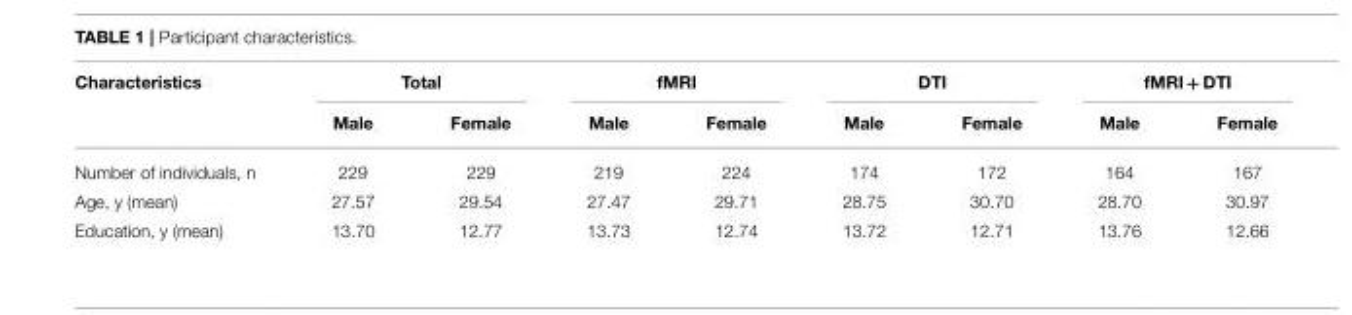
<table><thead><tr><td rowspan="2">Characteristics</td><td colspan="2">Total</td><td colspan="2">fMRI</td><td colspan="2">DTI</td><td colspan="2">fMRI + DTI</td></tr><tr><td>Male</td><td>Female</td><td>Male</td><td>Female</td><td>Male</td><td>Female</td><td>Male</td><td>Female</td></tr></thead><tbody><tr><td>Number of individuals, n</td><td>229</td><td>229</td><td>219</td><td>224</td><td>174</td><td>172</td><td>164</td><td>167</td></tr><tr><td>Age, y (mean)</td><td>27.57</td><td>29.54</td><td>27.47</td><td>29.71</td><td>28.75</td><td>30.70</td><td>28.70</td><td>30.97</td></tr><tr><td>Education, y (mean)</td><td>13.70</td><td>12.77</td><td>13.73</td><td>12.74</td><td>13.72</td><td>12.71</td><td>13.76</td><td>12.66</td></tr></tbody></table>